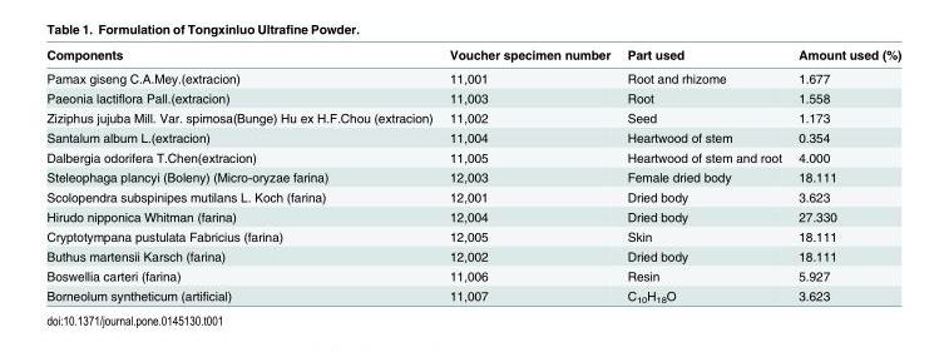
<table><thead><tr><td>Components</td><td>Voucher specimen number</td><td>Part used</td><td>Amount used (%)</td></tr></thead><tbody><tr><td>Pamax giseng C.A.Mey.(extracion)</td><td>11,001</td><td>Root and rhizome</td><td>1.677</td></tr><tr><td>Paeonia lactiflora Pall.(extracion)</td><td>11,003</td><td>Root</td><td>1.558</td></tr><tr><td>Ziziphus jujuba Mill. Var. spimosa(Bunge) Hu ex H.F.Chou (extracion)</td><td>11,002</td><td>Seed</td><td>1.173</td></tr><tr><td>Santalum album L.(extracion)</td><td>11,004</td><td>Heartwood of stem</td><td>0.354</td></tr><tr><td>Dalbergia odorifera T.Chen(extracion)</td><td>11,005</td><td>Heartwood of stem and root</td><td>4.000</td></tr><tr><td>Steleophaga plancyi (Boleny) (Micro-oryzae farina)</td><td>12,003</td><td>Female dried body</td><td>18.111</td></tr><tr><td>Scolopendra subspinipes mutilans L. Koch (farina)</td><td>12,001</td><td>Dried body</td><td>3.623</td></tr><tr><td>Hirudo nipponica Whitman (farina)</td><td>12,004</td><td>Dried body</td><td>27.330</td></tr><tr><td>Cryptotympana pustulata Fabricius (farina)</td><td>12,005</td><td>Skin</td><td>18.111</td></tr><tr><td>Buthus martensii Karsch (farina)</td><td>12,002</td><td>Dried body</td><td>18.111</td></tr><tr><td>Boswellia carteri (farina)</td><td>11,006</td><td>Resin</td><td>5.927</td></tr><tr><td>Borneolum syntheticum (artificial)</td><td>11,007</td><td>C<sub>10</sub>H<sub>18</sub>O</td><td>3.623</td></tr></tbody></table>